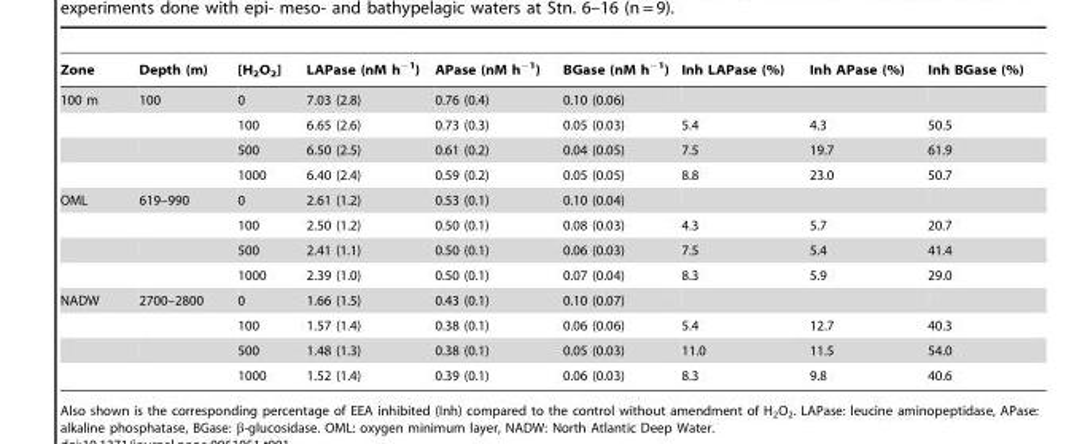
<table><thead><tr><td>Zone</td><td>Depth (m)</td><td>[H<sub>2</sub>O<sub>2</sub>]</td><td>LAPase (nM h<sup>−1</sup>)</td><td>APase (nM h<sup>−1</sup>)</td><td>BGase (nM h<sup>−1</sup>)</td><td>Inh LAPase (%)</td><td>Inh APase (%)</td><td>Inh BGase (%)</td></tr></thead><tbody><tr><td rowspan="4">100 m</td><td>100</td><td>0</td><td>7.03 (2.8)</td><td>0.76 (0.4)</td><td>0.10 (0.06)</td><td></td><td></td><td></td></tr><tr><td></td><td>100</td><td>6.65 (2.6)</td><td>0.73 (0.3)</td><td>0.05 (0.03)</td><td>5.4</td><td>4.3</td><td>50.5</td></tr><tr><td></td><td>500</td><td>6.50 (2.5)</td><td>0.61 (0.2)</td><td>0.04 (0.05)</td><td>7.5</td><td>19.7</td><td>61.9</td></tr><tr><td></td><td>1000</td><td>6.40 (2.4)</td><td>0.59 (0.2)</td><td>0.05 (0.05)</td><td>8.8</td><td>23.0</td><td>50.7</td></tr><tr><td rowspan="4">OML</td><td>619–990</td><td>0</td><td>2.61 (1.2)</td><td>0.53 (0.1)</td><td>0.10 (0.04)</td><td></td><td></td><td></td></tr><tr><td></td><td>100</td><td>2.50 (1.2)</td><td>0.50 (0.1)</td><td>0.08 (0.03)</td><td>4.3</td><td>5.7</td><td>20.7</td></tr><tr><td></td><td>500</td><td>2.41 (1.1)</td><td>0.50 (0.1)</td><td>0.06 (0.03)</td><td>7.5</td><td>5.4</td><td>41.4</td></tr><tr><td></td><td>1000</td><td>2.39 (1.0)</td><td>0.50 (0.1)</td><td>0.07 (0.04)</td><td>8.3</td><td>5.9</td><td>29.0</td></tr><tr><td rowspan="4">NADW</td><td>2700–2800</td><td>0</td><td>1.66 (1.5)</td><td>0.43 (0.1)</td><td>0.10 (0.07)</td><td></td><td></td><td></td></tr><tr><td></td><td>100</td><td>1.57 (1.4)</td><td>0.38 (0.1)</td><td>0.06 (0.06)</td><td>5.4</td><td>12.7</td><td>40.3</td></tr><tr><td></td><td>500</td><td>1.48 (1.3)</td><td>0.38 (0.1)</td><td>0.05 (0.03)</td><td>11.0</td><td>11.5</td><td>54.0</td></tr><tr><td></td><td>1000</td><td>1.52 (1.4)</td><td>0.39 (0.1)</td><td>0.06 (0.03)</td><td>8.3</td><td>9.8</td><td>40.6</td></tr></tbody></table>